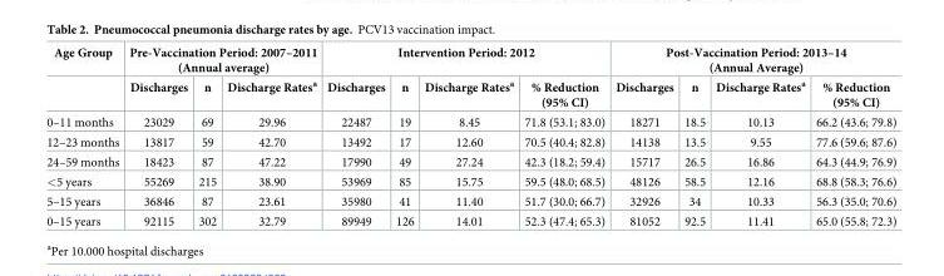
<table><thead><tr><td rowspan="2">Age Group</td><td colspan="3">Pre-Vaccination Period: 2007–2011 (Annual average)</td><td colspan="4">Intervention Period: 2012</td><td colspan="4">Post-Vaccination Period: 2013–14 (Annual Average)</td></tr><tr><td>Discharges</td><td>n</td><td>Discharge Rates<sup>a</sup></td><td>Discharges</td><td>n</td><td>Discharge Rates<sup>a</sup></td><td>% Reduction (95% CI)</td><td>Discharges</td><td>n</td><td>Discharge Rates<sup>a</sup></td><td>% Reduction (95% CI)</td></tr></thead><tbody><tr><td>0–11 months</td><td>23029</td><td>69</td><td>29.96</td><td>22487</td><td>19</td><td>8.45</td><td>71.8 (53.1; 83.0)</td><td>18271</td><td>18.5</td><td>10.13</td><td>66.2 (43.6; 79.8)</td></tr><tr><td>12–23 months</td><td>13817</td><td>59</td><td>42.70</td><td>13492</td><td>17</td><td>12.60</td><td>70.5 (40.4; 82.8)</td><td>14138</td><td>13.5</td><td>9.55</td><td>77.6 (59.6; 87.6)</td></tr><tr><td>24–59 months</td><td>18423</td><td>87</td><td>47.22</td><td>17990</td><td>49</td><td>27.24</td><td>42.3 (18.2; 59.4)</td><td>15717</td><td>26.5</td><td>16.86</td><td>64.3 (44.9; 76.9)</td></tr><tr><td>&lt;5 years</td><td>55269</td><td>215</td><td>38.90</td><td>53969</td><td>85</td><td>15.75</td><td>59.5 (48.0; 68.5)</td><td>48126</td><td>58.5</td><td>12.16</td><td>68.8 (58.3; 76.6)</td></tr><tr><td>5–15 years</td><td>36846</td><td>87</td><td>23.61</td><td>35980</td><td>41</td><td>11.40</td><td>51.7 (30.0; 66.7)</td><td>32926</td><td>34</td><td>10.33</td><td>56.3 (35.0; 70.6)</td></tr><tr><td>0–15 years</td><td>92115</td><td>302</td><td>32.79</td><td>89949</td><td>126</td><td>14.01</td><td>52.3 (47.4; 65.3)</td><td>81052</td><td>92.5</td><td>11.41</td><td>65.0 (55.8; 72.3)</td></tr></tbody></table>